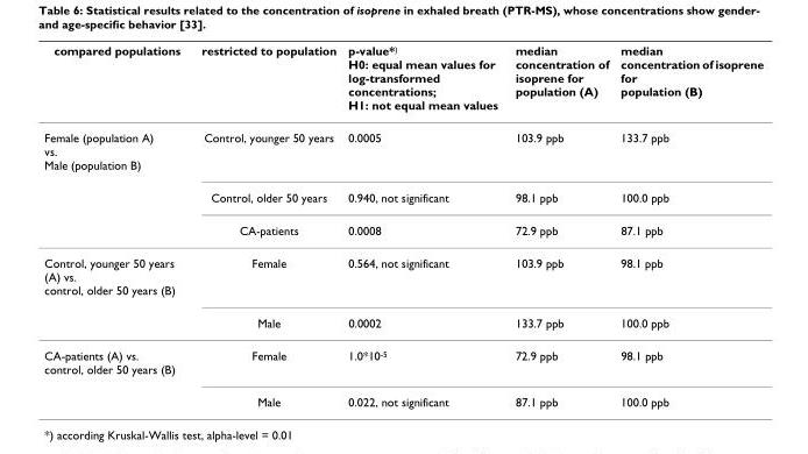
<table><thead><tr><td>compared populations</td><td>restricted to population</td><td>p-value*<sup>)</sup> H0: equal mean values for log-transformed concentrations; H1: not equal mean values</td><td>median concentration of isoprene for population (A)</td><td>median concentration of isoprene for population (B)</td></tr></thead><tbody><tr><td rowspan="3">Female (population A) vs. Male (population B)</td><td>Control, younger 50 years</td><td>0.0005</td><td>103.9 ppb</td><td>133.7 ppb</td></tr><tr><td>Control, older 50 years</td><td>0.940, not significant</td><td>98.1 ppb</td><td>100.0 ppb</td></tr><tr><td>CA-patients</td><td>0.0008</td><td>72.9 ppb</td><td>87.1 ppb</td></tr><tr><td rowspan="2">Control, younger 50 years (A) vs. control, older 50 years (B)</td><td>Female</td><td>0.564, not significant</td><td>103.9 ppb</td><td>98.1 ppb</td></tr><tr><td>Male</td><td>0.0002</td><td>133.7 ppb</td><td>100.0 ppb</td></tr><tr><td rowspan="2">CA-patients (A) vs. control, older 50 years (B)</td><td>Female</td><td>1.0*10<sup>-5</sup></td><td>72.9 ppb</td><td>98.1 ppb</td></tr><tr><td>Male</td><td>0.022, not significant</td><td>87.1 ppb</td><td>100.0 ppb</td></tr></tbody></table>